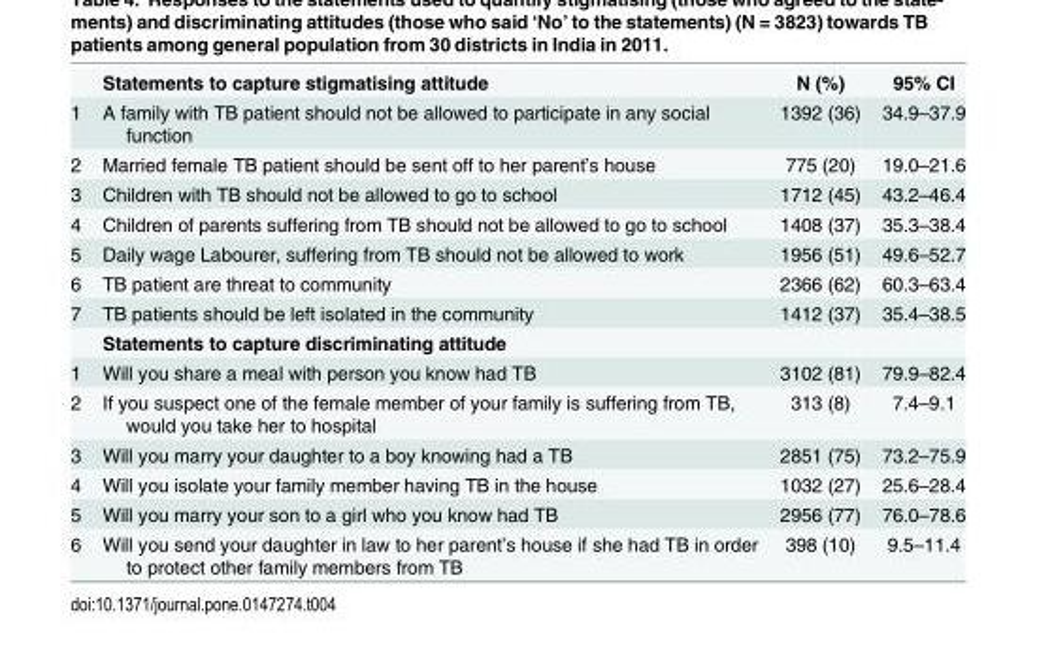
<table><thead><tr><td></td><td>Statements to capture stigmatising attitude</td><td>N (%)</td><td>95% CI</td></tr></thead><tbody><tr><td>1</td><td>A family with TB patient should not be allowed to participate in any social function</td><td>1392 (36)</td><td>34.9–37.9</td></tr><tr><td>2</td><td>Married female TB patient should be sent off to her parent’s house</td><td>775 (20)</td><td>19.0–21.6</td></tr><tr><td>3</td><td>Children with TB should not be allowed to go to school</td><td>1712 (45)</td><td>43.2–46.4</td></tr><tr><td>4</td><td>Children of parents suffering from TB should not be allowed to go to school</td><td>1408 (37)</td><td>35.3–38.4</td></tr><tr><td>5</td><td>Daily wage Labourer, suffering from TB should not be allowed to work</td><td>1956 (51)</td><td>49.6–52.7</td></tr><tr><td>6</td><td>TB patient are threat to community</td><td>2366 (62)</td><td>60.3–63.4</td></tr><tr><td rowspan="2">7</td><td>TB patients should be left isolated in the community</td><td>1412 (37)</td><td>35.4–38.5</td></tr><tr><td>Statements to capture discriminating attitude</td><td></td><td></td></tr><tr><td>1</td><td>Will you share a meal with person you know had TB</td><td>3102 (81)</td><td>79.9–82.4</td></tr><tr><td>2</td><td>If you suspect one of the female member of your family is suffering from TB, would you take her to hospital</td><td>313 (8)</td><td>7.4–9.1</td></tr><tr><td>3</td><td>Will you marry your daughter to a boy knowing had a TB</td><td>2851 (75)</td><td>73.2–75.9</td></tr><tr><td>4</td><td>Will you isolate your family member having TB in the house</td><td>1032 (27)</td><td>25.6–28.4</td></tr><tr><td>5</td><td>Will you marry your son to a girl who you know had TB</td><td>2956 (77)</td><td>76.0–78.6</td></tr><tr><td>6</td><td>Will you send your daughter in law to her parent’s house if she had TB in order to protect other family members from TB</td><td>398 (10)</td><td>9.5–11.4</td></tr></tbody></table>